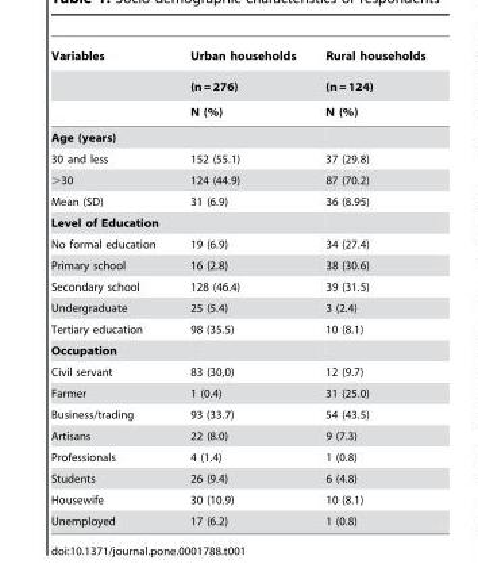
<table><thead><tr><td rowspan="3">Variables</td><td rowspan="3">Urban households (n = 276) N (%)</td><td rowspan="3">Rural households (n = 124) N (%)</td></tr><tr></tr><tr></tr></thead><tbody><tr><td colspan="3">Age (years)</td></tr><tr><td>30 and less</td><td>152 (55.1)</td><td>37 (29.8)</td></tr><tr><td>&gt;30</td><td>124 (44.9)</td><td>87 (70.2)</td></tr><tr><td>Mean (SD)</td><td>31 (6.9)</td><td>36 (8.95)</td></tr><tr><td colspan="3">Level of Education</td></tr><tr><td>No formal education</td><td>19 (6.9)</td><td>34 (27.4)</td></tr><tr><td>Primary school</td><td>16 (2.8)</td><td>38 (30.6)</td></tr><tr><td>Secondary school</td><td>128 (46.4)</td><td>39 (31.5)</td></tr><tr><td>Undergraduate</td><td>25 (5.4)</td><td>3 (2.4)</td></tr><tr><td>Tertiary education</td><td>98 (35.5)</td><td>10 (8.1)</td></tr><tr><td colspan="3">Occupation</td></tr><tr><td>Civil servant</td><td>83 (30,0)</td><td>12 (9.7)</td></tr><tr><td>Farmer</td><td>1 (0.4)</td><td>31 (25.0)</td></tr><tr><td>Business/trading</td><td>93 (33.7)</td><td>54 (43.5)</td></tr><tr><td>Artisans</td><td>22 (8.0)</td><td>9 (7.3)</td></tr><tr><td>Professionals</td><td>4 (1.4)</td><td>1 (0.8)</td></tr><tr><td>Students</td><td>26 (9.4)</td><td>6 (4.8)</td></tr><tr><td>Housewife</td><td>30 (10.9)</td><td>10 (8.1)</td></tr><tr><td>Unemployed</td><td>17 (6.2)</td><td>1 (0.8)</td></tr></tbody></table>